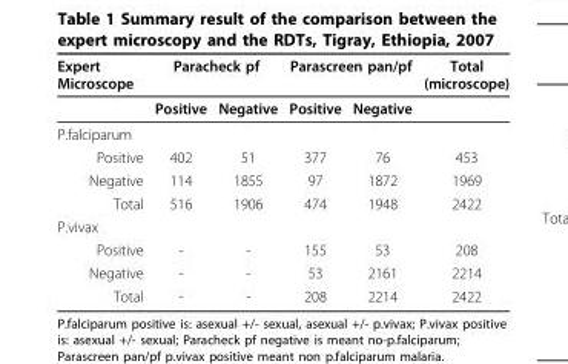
<table><thead><tr><td rowspan="2">Expert Microscope</td><td colspan="2">Paracheck pf</td><td colspan="2">Parascreen pan/pf</td><td rowspan="2">Total (microscope)</td></tr><tr><td>Positive</td><td>Negative</td><td>Positive</td><td>Negative</td></tr></thead><tbody><tr><td colspan="6">P.falciparum</td></tr><tr><td>Positive</td><td>402</td><td>51</td><td>377</td><td>76</td><td>453</td></tr><tr><td>Negative</td><td>114</td><td>1855</td><td>97</td><td>1872</td><td>1969</td></tr><tr><td>Total</td><td>516</td><td>1906</td><td>474</td><td>1948</td><td>2422</td></tr><tr><td colspan="6">P.vivax</td></tr><tr><td>Positive</td><td>-</td><td>-</td><td>155</td><td>53</td><td>208</td></tr><tr><td>Negative</td><td>-</td><td>-</td><td>53</td><td>2161</td><td>2214</td></tr><tr><td>Total</td><td>-</td><td>-</td><td>208</td><td>2214</td><td>2422</td></tr></tbody></table>